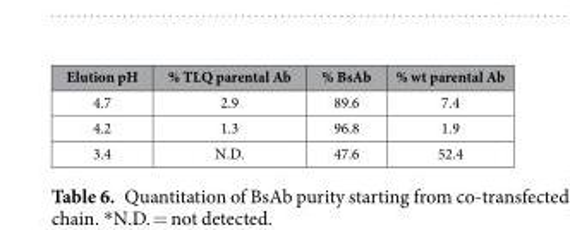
<table><thead><tr><td>Elution pH</td><td>% TLQ parental Ab</td><td>% BsAb</td><td>% wt parental Ab</td></tr></thead><tbody><tr><td>4.7</td><td>2.9</td><td>89.6</td><td>7.4</td></tr><tr><td>4.2</td><td>1.3</td><td>96.8</td><td>1.9</td></tr><tr><td>3.4</td><td>N.D.</td><td>47.6</td><td>52.4</td></tr></tbody></table>